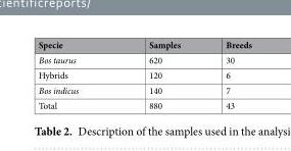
<table><thead><tr><td>Specie</td><td>Samples</td><td>Breeds</td></tr></thead><tbody><tr><td>Bos taurus</td><td>620</td><td>30</td></tr><tr><td>Hybrids</td><td>120</td><td>6</td></tr><tr><td>Bos indicus</td><td>140</td><td>7</td></tr><tr><td>Total</td><td>880</td><td>43</td></tr></tbody></table>